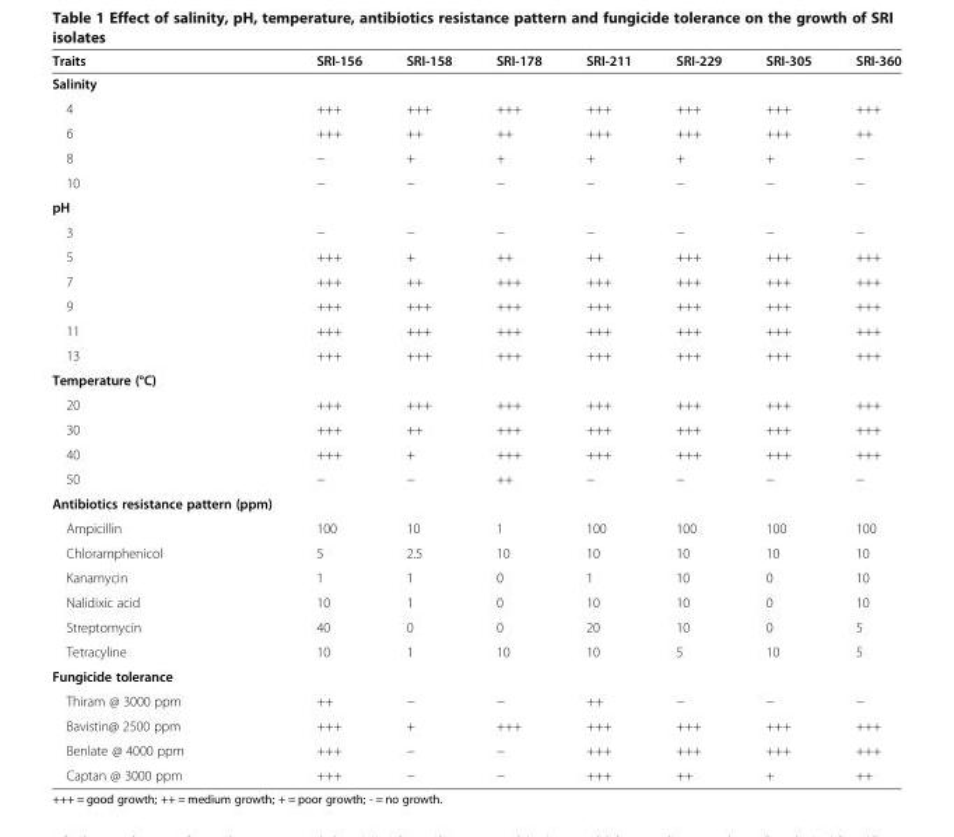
<table><thead><tr><td>Traits</td><td>SRI-156</td><td>SRI-158</td><td>SRI-178</td><td>SRI-211</td><td>SRI-229</td><td>SRI-305</td><td>SRI-360</td></tr></thead><tbody><tr><td colspan="8">Salinity</td></tr><tr><td>4</td><td>+++</td><td>+++</td><td>+++</td><td>+++</td><td>+++</td><td>+++</td><td>+++</td></tr><tr><td>6</td><td>+++</td><td>++</td><td>++</td><td>+++</td><td>+++</td><td>+++</td><td>++</td></tr><tr><td>8</td><td>−</td><td>+</td><td>+</td><td>+</td><td>+</td><td>+</td><td>−</td></tr><tr><td>10</td><td>−</td><td>−</td><td>−</td><td>−</td><td>−</td><td>−</td><td>−</td></tr><tr><td colspan="8">pH</td></tr><tr><td>3</td><td>−</td><td>−</td><td>−</td><td>−</td><td>−</td><td>−</td><td>−</td></tr><tr><td>5</td><td>+++</td><td>+</td><td>++</td><td>++</td><td>+++</td><td>+++</td><td>+++</td></tr><tr><td>7</td><td>+++</td><td>++</td><td>+++</td><td>+++</td><td>+++</td><td>+++</td><td>+++</td></tr><tr><td>9</td><td>+++</td><td>+++</td><td>+++</td><td>+++</td><td>+++</td><td>+++</td><td>+++</td></tr><tr><td>11</td><td>+++</td><td>+++</td><td>+++</td><td>+++</td><td>+++</td><td>+++</td><td>+++</td></tr><tr><td>13</td><td>+++</td><td>+++</td><td>+++</td><td>+++</td><td>+++</td><td>+++</td><td>+++</td></tr><tr><td colspan="8">Temperature (°C)</td></tr><tr><td>20</td><td>+++</td><td>+++</td><td>+++</td><td>+++</td><td>+++</td><td>+++</td><td>+++</td></tr><tr><td>30</td><td>+++</td><td>++</td><td>+++</td><td>+++</td><td>+++</td><td>+++</td><td>+++</td></tr><tr><td>40</td><td>+++</td><td>+</td><td>+++</td><td>+++</td><td>+++</td><td>+++</td><td>+++</td></tr><tr><td>50</td><td>−</td><td>−</td><td>++</td><td>−</td><td>−</td><td>−</td><td>−</td></tr><tr><td colspan="8">Antibiotics resistance pattern (ppm)</td></tr><tr><td>Ampicillin</td><td>100</td><td>10</td><td>1</td><td>100</td><td>100</td><td>100</td><td>100</td></tr><tr><td>Chloramphenicol</td><td>5</td><td>2.5</td><td>10</td><td>10</td><td>10</td><td>10</td><td>10</td></tr><tr><td>Kanamycin</td><td>1</td><td>1</td><td>0</td><td>1</td><td>10</td><td>0</td><td>10</td></tr><tr><td>Nalidixic acid</td><td>10</td><td>1</td><td>0</td><td>10</td><td>10</td><td>0</td><td>10</td></tr><tr><td>Streptomycin</td><td>40</td><td>0</td><td>0</td><td>20</td><td>10</td><td>0</td><td>5</td></tr><tr><td>Tetracyline</td><td>10</td><td>1</td><td>10</td><td>10</td><td>5</td><td>10</td><td>5</td></tr><tr><td colspan="8">Fungicide tolerance</td></tr><tr><td>Thiram @ 3000 ppm</td><td>++</td><td>−</td><td>−</td><td>++</td><td>−</td><td>−</td><td>−</td></tr><tr><td>Bavistin@ 2500 ppm</td><td>+++</td><td>+</td><td>+++</td><td>+++</td><td>+++</td><td>+++</td><td>+++</td></tr><tr><td>Benlate @ 4000 ppm</td><td>+++</td><td>−</td><td>−</td><td>+++</td><td>+++</td><td>+++</td><td>+++</td></tr><tr><td>Captan @ 3000 ppm</td><td>+++</td><td>−</td><td>−</td><td>+++</td><td>++</td><td>+</td><td>++</td></tr></tbody></table>